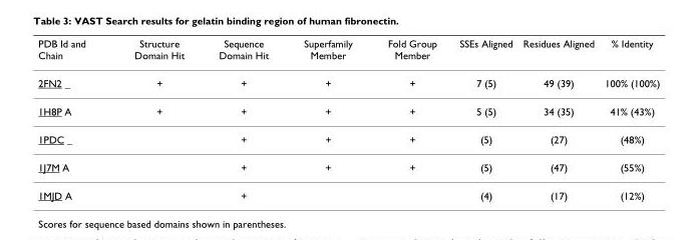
<table><thead><tr><td>PDB Id and Chain</td><td>Structure Domain Hit</td><td>Sequence Domain Hit</td><td>Superfamily Member</td><td>Fold Group Member</td><td>SSEs Aligned</td><td>Residues Aligned</td><td>% Identity</td></tr></thead><tbody><tr><td>2FN2 _</td><td>+</td><td>+</td><td>+</td><td>+</td><td>7 (5)</td><td>49 (39)</td><td>100% (100%)</td></tr><tr><td>1H8P A</td><td>+</td><td>+</td><td>+</td><td>+</td><td>5 (5)</td><td>34 (35)</td><td>41% (43%)</td></tr><tr><td>1PDC _</td><td></td><td>+</td><td>+</td><td>+</td><td>(5)</td><td>(27)</td><td>(48%)</td></tr><tr><td>1J7M A</td><td></td><td>+</td><td>+</td><td>+</td><td>(5)</td><td>(47)</td><td>(55%)</td></tr><tr><td>1MJD A</td><td></td><td>+</td><td></td><td></td><td>(4)</td><td>(17)</td><td>(12%)</td></tr></tbody></table>